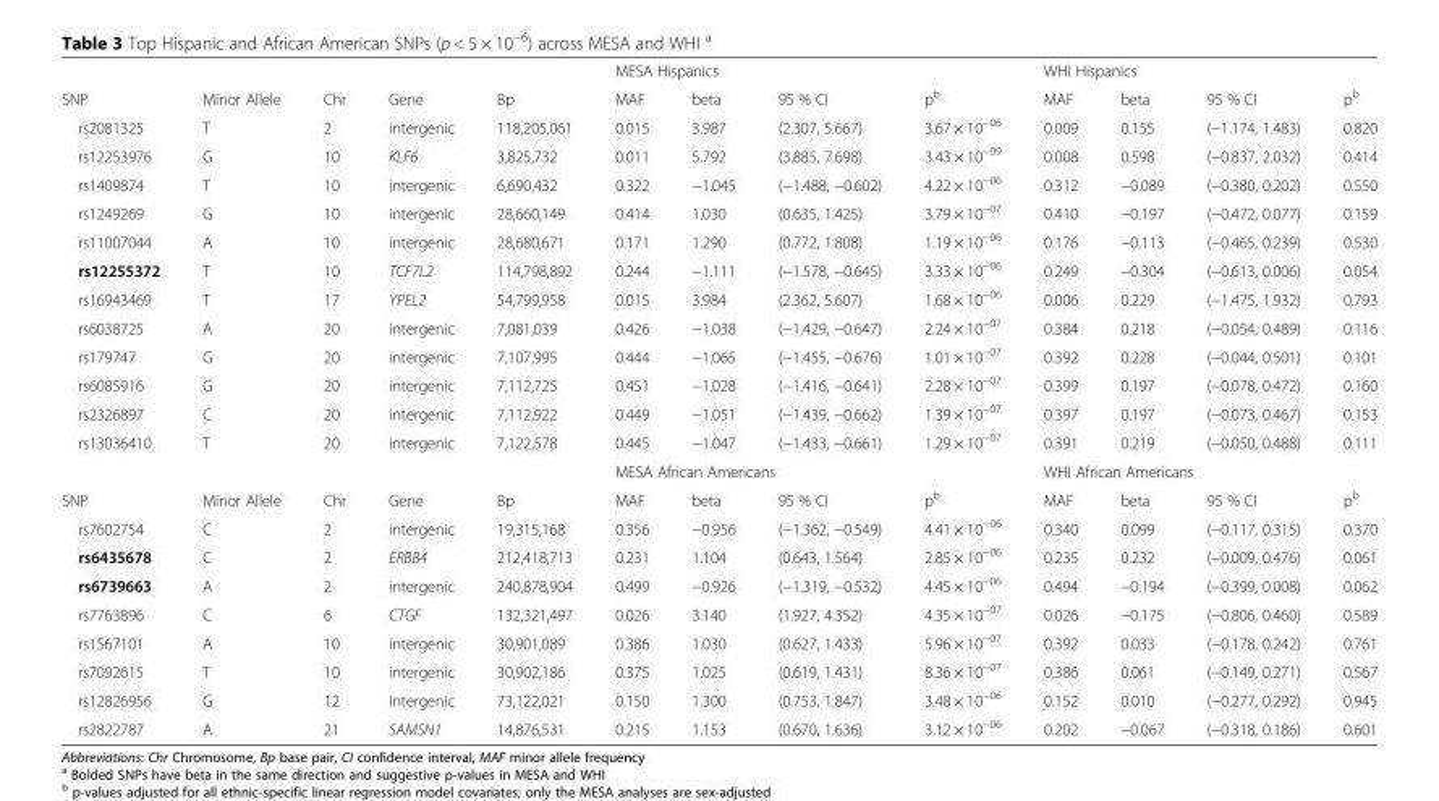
<table><thead><tr><td rowspan="2">SNP</td><td rowspan="2">Minor Allele</td><td rowspan="2">Chr</td><td rowspan="2">Gene</td><td rowspan="2">Bp</td><td colspan="4">MESA Hispanics</td><td colspan="4">WHI Hispanics</td></tr><tr><td>MAF</td><td>beta</td><td>95 % CI</td><td>p<sup>b</sup></td><td>MAF</td><td>beta</td><td>95 % CI</td><td>p<sup>b</sup></td></tr></thead><tbody><tr><td>rs2081325</td><td>T</td><td>2</td><td>intergenic</td><td>118,205,061</td><td>0.015</td><td>3.987</td><td>(2.307, 5.667)</td><td>3.67 × 10<sup>−06</sup></td><td>0.009</td><td>0.155</td><td>(−1.174, 1.483)</td><td>0.820</td></tr><tr><td>rs12253976</td><td>G</td><td>10</td><td>KLF6</td><td>3,825,732</td><td>0.011</td><td>5.792</td><td>(3.885, 7.698)</td><td>3.43 × 10<sup>−09</sup></td><td>0.008</td><td>0.598</td><td>(−0.837, 2.032)</td><td>0.414</td></tr><tr><td>rs1409874</td><td>T</td><td>10</td><td>intergenic</td><td>6,690,432</td><td>0.322</td><td>−1.045</td><td>(−1.488, −0.602)</td><td>4.22 × 10<sup>−06</sup></td><td>0.312</td><td>−0.089</td><td>(−0.380, 0.202)</td><td>0.550</td></tr><tr><td>rs1249269</td><td>G</td><td>10</td><td>intergenic</td><td>28,660,149</td><td>0.414</td><td>1.030</td><td>(0.635, 1.425)</td><td>3.79 × 10<sup>−07</sup></td><td>0.410</td><td>−0.197</td><td>(−0.472, 0.077)</td><td>0.159</td></tr><tr><td>rs11007044</td><td>A</td><td>10</td><td>intergenic</td><td>28,680,671</td><td>0.171</td><td>1.290</td><td>(0.772, 1.808)</td><td>1.19 × 10<sup>−06</sup></td><td>0.176</td><td>−0.113</td><td>(−0.465, 0.239)</td><td>0.530</td></tr><tr><td>rs12255372</td><td>T</td><td>10</td><td>TCF7L2</td><td>114,798,892</td><td>0.244</td><td>−1.111</td><td>(−1.578, −0.645)</td><td>3.33 × 10<sup>−06</sup></td><td>0.249</td><td>−0.304</td><td>(−0.613, 0.006)</td><td>0.054</td></tr><tr><td>rs16943469</td><td>T</td><td>17</td><td>YPEL2</td><td>54,799,958</td><td>0.015</td><td>3.984</td><td>(2.362, 5.607)</td><td>1.68 × 10<sup>−06</sup></td><td>0.006</td><td>0.229</td><td>(−1.475, 1.932)</td><td>0.793</td></tr><tr><td>rs6038725</td><td>A</td><td>20</td><td>intergenic</td><td>7,081,039</td><td>0.426</td><td>−1.038</td><td>(−1.429, −0.647)</td><td>2.24 × 10<sup>−07</sup></td><td>0.384</td><td>0.218</td><td>(−0.054, 0.489)</td><td>0.116</td></tr><tr><td>rs179747</td><td>G</td><td>20</td><td>intergenic</td><td>7,107,995</td><td>0.444</td><td>−1.065</td><td>(−1.455, −0.676)</td><td>1.01 × 10<sup>−07</sup></td><td>0.392</td><td>0.228</td><td>(−0.044, 0.501)</td><td>0.101</td></tr><tr><td>rs6085916</td><td>G</td><td>20</td><td>intergenic</td><td>7,112,725</td><td>0.451</td><td>−1.028</td><td>(−1.416, −0.641)</td><td>2.28 × 10<sup>−07</sup></td><td>0.399</td><td>0.197</td><td>(−0.078, 0.472)</td><td>0.160</td></tr><tr><td>rs2326897</td><td>C</td><td>20</td><td>intergenic</td><td>7,112,922</td><td>0.449</td><td>−1.051</td><td>(−1.439, −0.662)</td><td>1.39 × 10<sup>−07</sup></td><td>0.397</td><td>0.197</td><td>(−0.073, 0.467)</td><td>0.153</td></tr><tr><td rowspan="2">rs13036410</td><td>T</td><td>20</td><td>intergenic</td><td>7,122,578</td><td>0.445</td><td>−1.047</td><td>(−1.433, −0.661)</td><td>1.29 × 10<sup>−07</sup></td><td>0.391</td><td>0.219</td><td>(−0.050, 0.488)</td><td>0.111</td></tr><tr><td></td><td></td><td></td><td></td><td colspan="4">MESA African Americans</td><td colspan="4">WHI African Americans</td></tr><tr><td>SNP</td><td>Minor Allele</td><td>Chr</td><td>Gene</td><td>Bp</td><td>MAF</td><td>beta</td><td>95 % CI</td><td>p<sup>b</sup></td><td>MAF</td><td>beta</td><td>95 % CI</td><td>p<sup>b</sup></td></tr><tr><td>rs7602754</td><td>C</td><td>2</td><td>intergenic</td><td>19,315,168</td><td>0.356</td><td>−0.956</td><td>(−1.362, −0.549)</td><td>4.41 × 10<sup>−06</sup></td><td>0.340</td><td>0.099</td><td>(−0.117, 0.315)</td><td>0.370</td></tr><tr><td>rs6435678</td><td>C</td><td>2</td><td>ERBB4</td><td>212,418,713</td><td>0.231</td><td>1.104</td><td>(0.643, 1.564)</td><td>2.85 × 10<sup>−06</sup></td><td>0.235</td><td>0.232</td><td>(−0.009, 0.476)</td><td>0.061</td></tr><tr><td>rs6739663</td><td>A</td><td>2</td><td>intergenic</td><td>240,878,904</td><td>0.499</td><td>−0.926</td><td>(−1.319, −0.532)</td><td>4.45 × 10<sup>−06</sup></td><td>0.494</td><td>−0.194</td><td>(−0.399, 0.008)</td><td>0.062</td></tr><tr><td>rs7763896</td><td>C</td><td>6</td><td>CTGF</td><td>132,321,497</td><td>0.026</td><td>3.140</td><td>(1.927, 4.352)</td><td>4.35 × 10<sup>−07</sup></td><td>0.026</td><td>−0.175</td><td>(−0.806, 0.460)</td><td>0.589</td></tr><tr><td>rs1567101</td><td>A</td><td>10</td><td>intergenic</td><td>30,901,089</td><td>0.386</td><td>1.030</td><td>(0.627, 1.433)</td><td>5.96 × 10<sup>−07</sup></td><td>0.392</td><td>0.033</td><td>(−0.178, 0.242)</td><td>0.761</td></tr><tr><td>rs7092615</td><td>T</td><td>10</td><td>intergenic</td><td>30,902,186</td><td>0.375</td><td>1.025</td><td>(0.619, 1.431)</td><td>8.36 × 10<sup>−07</sup></td><td>0.386</td><td>0.061</td><td>(−0.149, 0.271)</td><td>0.567</td></tr><tr><td>rs12826956</td><td>G</td><td>12</td><td>intergenic</td><td>73,122,021</td><td>0.150</td><td>1.300</td><td>(0.753, 1.847)</td><td>3.48 × 10<sup>−06</sup></td><td>0.152</td><td>0.010</td><td>(−0.277, 0.292)</td><td>0.945</td></tr><tr><td>rs2822787</td><td>A</td><td>21</td><td>SAMSN1</td><td>14,876,531</td><td>0.215</td><td>1.153</td><td>(0.670, 1.636)</td><td>3.12 × 10<sup>−06</sup></td><td>0.202</td><td>−0.067</td><td>(−0.318, 0.186)</td><td>0.601</td></tr></tbody></table>